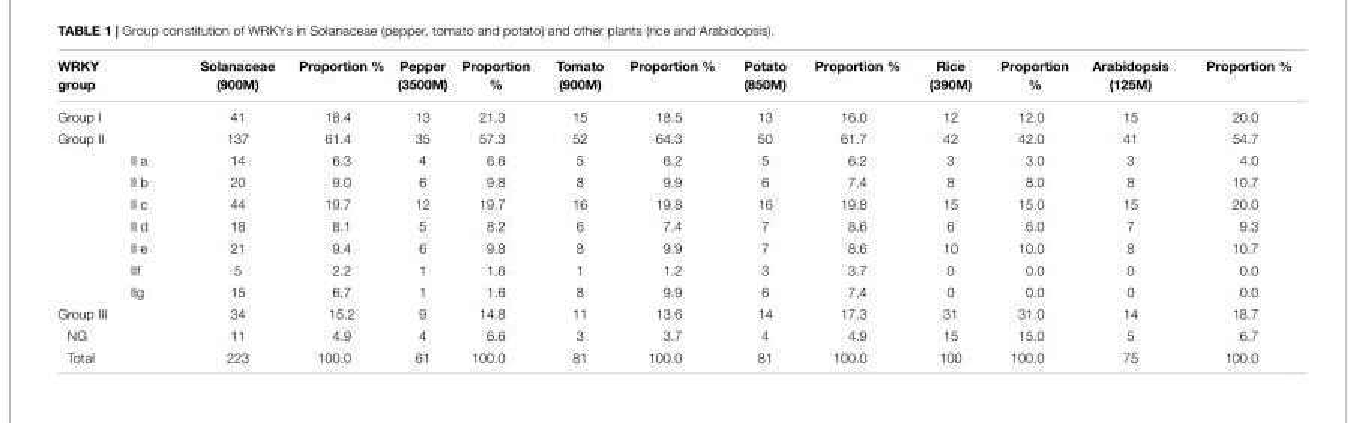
<table><thead><tr><td>WRKY group</td><td></td><td>Solanaceae (900M)</td><td>Proportion %</td><td>Pepper (3500M)</td><td>Proportion %</td><td>Tomato (900M)</td><td>Proportion %</td><td>Potato (850M)</td><td>Proportion %</td><td>Rice (390M)</td><td>Proportion %</td><td>Arabidopsis (125M)</td><td>Proportion %</td></tr></thead><tbody><tr><td>Group I</td><td></td><td>41</td><td>18.4</td><td>13</td><td>21.3</td><td>15</td><td>18.5</td><td>13</td><td>16.0</td><td>12</td><td>12.0</td><td>15</td><td>20.0</td></tr><tr><td rowspan="8">Group II</td><td></td><td>137</td><td>61.4</td><td>35</td><td>57.3</td><td>52</td><td>64.3</td><td>50</td><td>61.7</td><td>42</td><td>42.0</td><td>41</td><td>54.7</td></tr><tr><td>II a</td><td>14</td><td>6.3</td><td>4</td><td>6.6</td><td>5</td><td>6.2</td><td>5</td><td>6.2</td><td>3</td><td>3.0</td><td>3</td><td>4.0</td></tr><tr><td>II b</td><td>20</td><td>9.0</td><td>6</td><td>9.8</td><td>8</td><td>9.9</td><td>6</td><td>7.4</td><td>8</td><td>8.0</td><td>8</td><td>10.7</td></tr><tr><td>II c</td><td>44</td><td>19.7</td><td>12</td><td>19.7</td><td>16</td><td>19.8</td><td>16</td><td>19.8</td><td>15</td><td>15.0</td><td>15</td><td>20.0</td></tr><tr><td>II d</td><td>18</td><td>8.1</td><td>5</td><td>8.2</td><td>6</td><td>7.4</td><td>7</td><td>8.6</td><td>6</td><td>6.0</td><td>7</td><td>9.3</td></tr><tr><td>II e</td><td>21</td><td>9.4</td><td>6</td><td>9.8</td><td>8</td><td>9.9</td><td>7</td><td>8.6</td><td>10</td><td>10.0</td><td>8</td><td>10.7</td></tr><tr><td>IIf</td><td>5</td><td>2.2</td><td>1</td><td>1.6</td><td>1</td><td>1.2</td><td>3</td><td>3.7</td><td>0</td><td>0.0</td><td>0</td><td>0.0</td></tr><tr><td>IIg</td><td>15</td><td>6.7</td><td>1</td><td>1.6</td><td>8</td><td>9.9</td><td>6</td><td>7.4</td><td>0</td><td>0.0</td><td>0</td><td>0.0</td></tr><tr><td>Group III</td><td></td><td>34</td><td>15.2</td><td>9</td><td>14.8</td><td>11</td><td>13.6</td><td>14</td><td>17.3</td><td>31</td><td>31.0</td><td>14</td><td>18.7</td></tr><tr><td>NG</td><td></td><td>11</td><td>4.9</td><td>4</td><td>6.6</td><td>3</td><td>3.7</td><td>4</td><td>4.9</td><td>15</td><td>15.0</td><td>5</td><td>6.7</td></tr><tr><td>Total</td><td></td><td>223</td><td>100.0</td><td>61</td><td>100.0</td><td>81</td><td>100.0</td><td>81</td><td>100.0</td><td>100</td><td>100.0</td><td>75</td><td>100.0</td></tr></tbody></table>